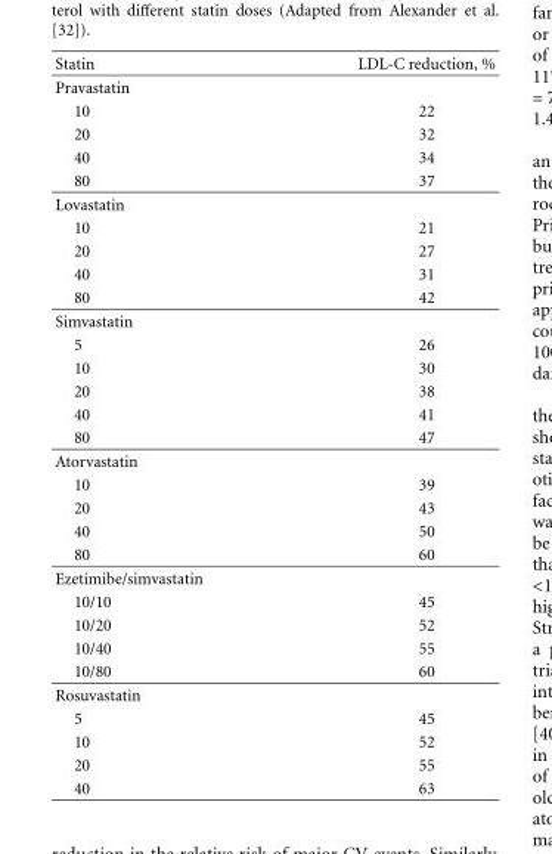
<table><thead><tr><td>Statin</td><td>LDL-C reduction, %</td></tr></thead><tbody><tr><td colspan="2">Pravastatin</td></tr><tr><td>10</td><td>22</td></tr><tr><td>20</td><td>32</td></tr><tr><td>40</td><td>34</td></tr><tr><td>80</td><td>37</td></tr><tr><td colspan="2">Lovastatin</td></tr><tr><td>10</td><td>21</td></tr><tr><td>20</td><td>27</td></tr><tr><td>40</td><td>31</td></tr><tr><td>80</td><td>42</td></tr><tr><td colspan="2">Simvastatin</td></tr><tr><td>5</td><td>26</td></tr><tr><td>10</td><td>30</td></tr><tr><td>20</td><td>38</td></tr><tr><td>40</td><td>41</td></tr><tr><td>80</td><td>47</td></tr><tr><td colspan="2">Atorvastatin</td></tr><tr><td>10</td><td>39</td></tr><tr><td>20</td><td>43</td></tr><tr><td>40</td><td>50</td></tr><tr><td>80</td><td>60</td></tr><tr><td colspan="2">Ezetimibe/simvastatin</td></tr><tr><td>10/10</td><td>45</td></tr><tr><td>10/20</td><td>52</td></tr><tr><td>10/40</td><td>55</td></tr><tr><td>10/80</td><td>60</td></tr><tr><td colspan="2">Rosuvastatin</td></tr><tr><td>5</td><td>45</td></tr><tr><td>10</td><td>52</td></tr><tr><td>20</td><td>55</td></tr><tr><td>40</td><td>63</td></tr></tbody></table>